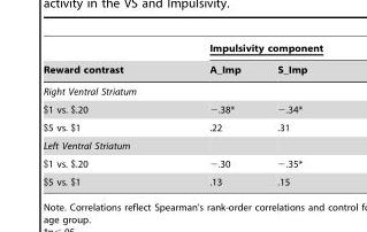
<table><thead><tr><td rowspan="2">Reward contrast</td><td colspan="2">Impulsivity component</td></tr><tr><td>A_Imp</td><td>S_Imp</td></tr></thead><tbody><tr><td colspan="3">Right Ventral Striatum</td></tr><tr><td>$1 vs. $.20</td><td>−.38*</td><td>−.34*</td></tr><tr><td>$5 vs. $1</td><td>.22</td><td>.31</td></tr><tr><td colspan="3">Left Ventral Striatum</td></tr><tr><td>$1 vs. $.20</td><td>−.30</td><td>−.35*</td></tr><tr><td>$5 vs. $1</td><td>.13</td><td>.15</td></tr></tbody></table>